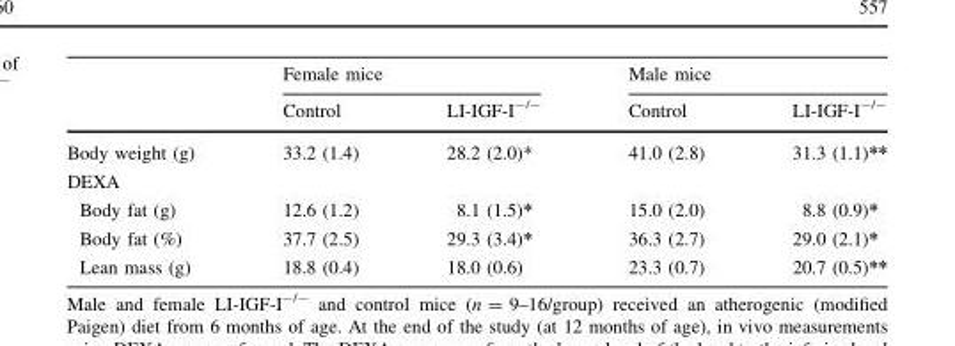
<table><thead><tr><td rowspan="2"></td><td colspan="2">Female mice</td><td colspan="2">Male mice</td></tr><tr><td>Control</td><td>LI-IGF-I<sup>-/-</sup></td><td>Control</td><td>LI-IGF-I<sup>-/-</sup></td></tr></thead><tbody><tr><td>Body weight (g)</td><td>33.2 (1.4)</td><td>28.2 (2.0)*</td><td>41.0 (2.8)</td><td>31.3 (1.1)**</td></tr><tr><td colspan="5">DEXA</td></tr><tr><td>Body fat (g)</td><td>12.6 (1.2)</td><td>8.1 (1.5)*</td><td>15.0 (2.0)</td><td>8.8 (0.9)*</td></tr><tr><td>Body fat (%)</td><td>37.7 (2.5)</td><td>29.3 (3.4)*</td><td>36.3 (2.7)</td><td>29.0 (2.1)*</td></tr><tr><td>Lean mass (g)</td><td>18.8 (0.4)</td><td>18.0 (0.6)</td><td>23.3 (0.7)</td><td>20.7 (0.5)**</td></tr></tbody></table>